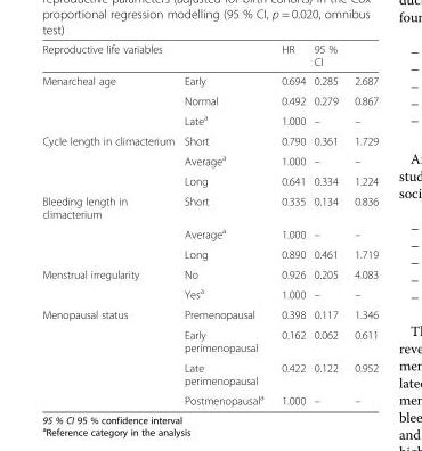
<table><thead><tr><td colspan="2">Reproductive life variables</td><td rowspan="2">HR 0.694</td><td rowspan="2">95 % CI 0.285</td><td rowspan="2">2.687</td></tr><tr><td>Menarcheal age</td><td>Early</td></tr></thead><tbody><tr><td></td><td>Normal</td><td>0.492</td><td>0.279</td><td>0.867</td></tr><tr><td></td><td>Late<sup>a</sup></td><td>1.000</td><td>–</td><td>–</td></tr><tr><td rowspan="3">Cycle length in climacterium</td><td>Short</td><td>0.790</td><td>0.361</td><td>1.729</td></tr><tr><td>Average<sup>a</sup></td><td>1.000</td><td>–</td><td>–</td></tr><tr><td>Long</td><td>0.641</td><td>0.334</td><td>1.224</td></tr><tr><td rowspan="3">Bleeding length in climacterium</td><td>Short</td><td>0.335</td><td>0.134</td><td>0.836</td></tr><tr><td>Average<sup>a</sup></td><td>1.000</td><td>–</td><td>–</td></tr><tr><td>Long</td><td>0.890</td><td>0.461</td><td>1.719</td></tr><tr><td rowspan="2">Menstrual irregularity</td><td>No</td><td>0.926</td><td>0.205</td><td>4.083</td></tr><tr><td>Yes<sup>a</sup></td><td>1.000</td><td>–</td><td>–</td></tr><tr><td rowspan="4">Menopausal status</td><td>Premenopausal</td><td>0.398</td><td>0.117</td><td>1.346</td></tr><tr><td>Early perimenopausal</td><td>0.162</td><td>0.062</td><td>0.611</td></tr><tr><td>Late perimenopausal</td><td>0.422</td><td>0.122</td><td>0.952</td></tr><tr><td>Postmenopausal<sup>a</sup></td><td>1.000</td><td>–</td><td>–</td></tr></tbody></table>